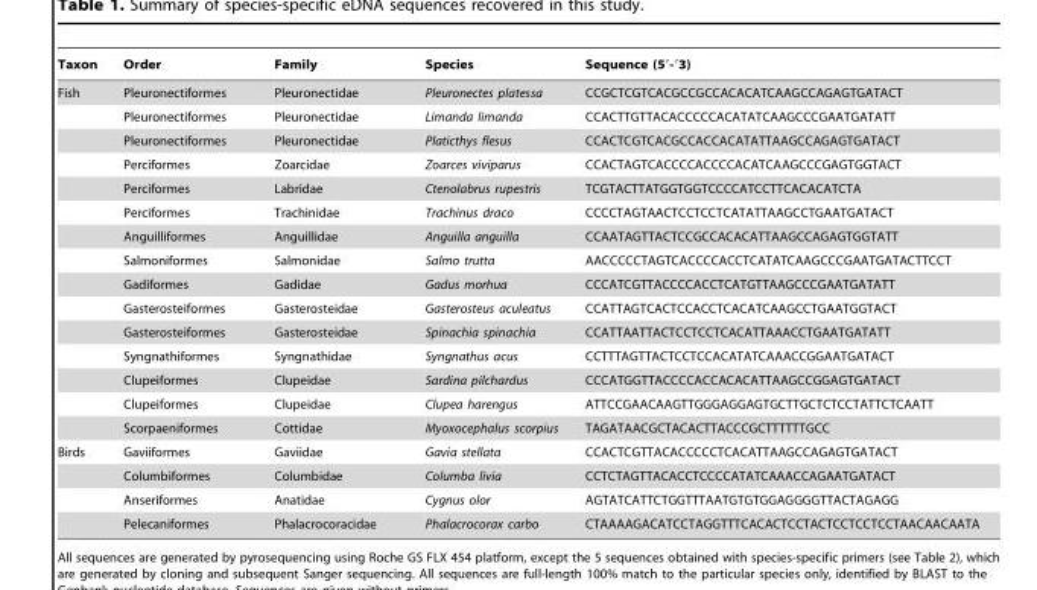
<table><thead><tr><td>Taxon</td><td>Order</td><td>Family</td><td>Species</td><td>Sequence (5′-′3)</td></tr></thead><tbody><tr><td rowspan="15">Fish</td><td>Pleuronectiformes</td><td>Pleuronectidae</td><td>Pleuronectes platessa</td><td>CCGCTCGTCACGCCGCCACACATCAAGCCAGAGTGATACT</td></tr><tr><td>Pleuronectiformes</td><td>Pleuronectidae</td><td>Limanda limanda</td><td>CCACTTGTTACACCCCCACATATCAAGCCCGAATGATATT</td></tr><tr><td>Pleuronectiformes</td><td>Pleuronectidae</td><td>Platicthys flesus</td><td>CCACTCGTCACGCCACCACATATTAAGCCAGAGTGATACT</td></tr><tr><td>Perciformes</td><td>Zoarcidae</td><td>Zoarces viviparus</td><td>CCACTAGTCACCCCACCCCACATCAAGCCCGAGTGGTACT</td></tr><tr><td>Perciformes</td><td>Labridae</td><td>Ctenolabrus rupestris</td><td>TCGTACTTATGGTGGTCCCCATCCTTCACACATCTA</td></tr><tr><td>Perciformes</td><td>Trachinidae</td><td>Trachinus draco</td><td>CCCCTAGTAACTCCTCCTCATATTAAGCCTGAATGATACT</td></tr><tr><td>Anguilliformes</td><td>Anguillidae</td><td>Anguilla anguilla</td><td>CCAATAGTTACTCCGCCACACATTAAGCCAGAGTGGTATT</td></tr><tr><td>Salmoniformes</td><td>Salmonidae</td><td>Salmo trutta</td><td>AACCCCCTAGTCACCCCACCTCATATCAAGCCCGAATGATACTTCCT</td></tr><tr><td>Gadiformes</td><td>Gadidae</td><td>Gadus morhua</td><td>CCCATCGTTACCCCACCTCATGTTAAGCCCGAATGATATT</td></tr><tr><td>Gasterosteiformes</td><td>Gasterosteidae</td><td>Gasterosteus aculeatus</td><td>CCATTAGTCACTCCACCTCACATCAAGCCTGAATGGTACT</td></tr><tr><td>Gasterosteiformes</td><td>Gasterosteidae</td><td>Spinachia spinachia</td><td>CCATTAATTACTCCTCCTCACATTAAACCTGAATGATATT</td></tr><tr><td>Syngnathiformes</td><td>Syngnathidae</td><td>Syngnathus acus</td><td>CCTTTAGTTACTCCTCCACATATCAAACCGGAATGATACT</td></tr><tr><td>Clupeiformes</td><td>Clupeidae</td><td>Sardina pilchardus</td><td>CCCATGGTTACCCCACCACACATTAAGCCGGAGTGATACT</td></tr><tr><td>Clupeiformes</td><td>Clupeidae</td><td>Clupea harengus</td><td>ATTCCGAACAAGTTGGGAGGAGTGCTTGCTCTCCTATTCTCAATT</td></tr><tr><td>Scorpaeniformes</td><td>Cottidae</td><td>Myoxocephalus scorpius</td><td>TAGATAACGCTACACTTACCCGCTTTTTTGCC</td></tr><tr><td rowspan="4">Birds</td><td>Gaviiformes</td><td>Gaviidae</td><td>Gavia stellata</td><td>CCACTCGTTACACCCCCTCACATTAAGCCAGAGTGATACT</td></tr><tr><td>Columbiformes</td><td>Columbidae</td><td>Columba livia</td><td>CCTCTAGTTACACCTCCCCATATCAAACCAGAATGATACT</td></tr><tr><td>Anseriformes</td><td>Anatidae</td><td>Cygnus olor</td><td>AGTATCATTCTGGTTTAATGTGTGGAGGGGTTACTAGAGG</td></tr><tr><td>Pelecaniformes</td><td>Phalacrocoracidae</td><td>Phalacrocorax carbo</td><td>CTAAAAGACATCCTAGGTTTCACACTCCTACTCCTCCTCCTAACAACAATA</td></tr></tbody></table>